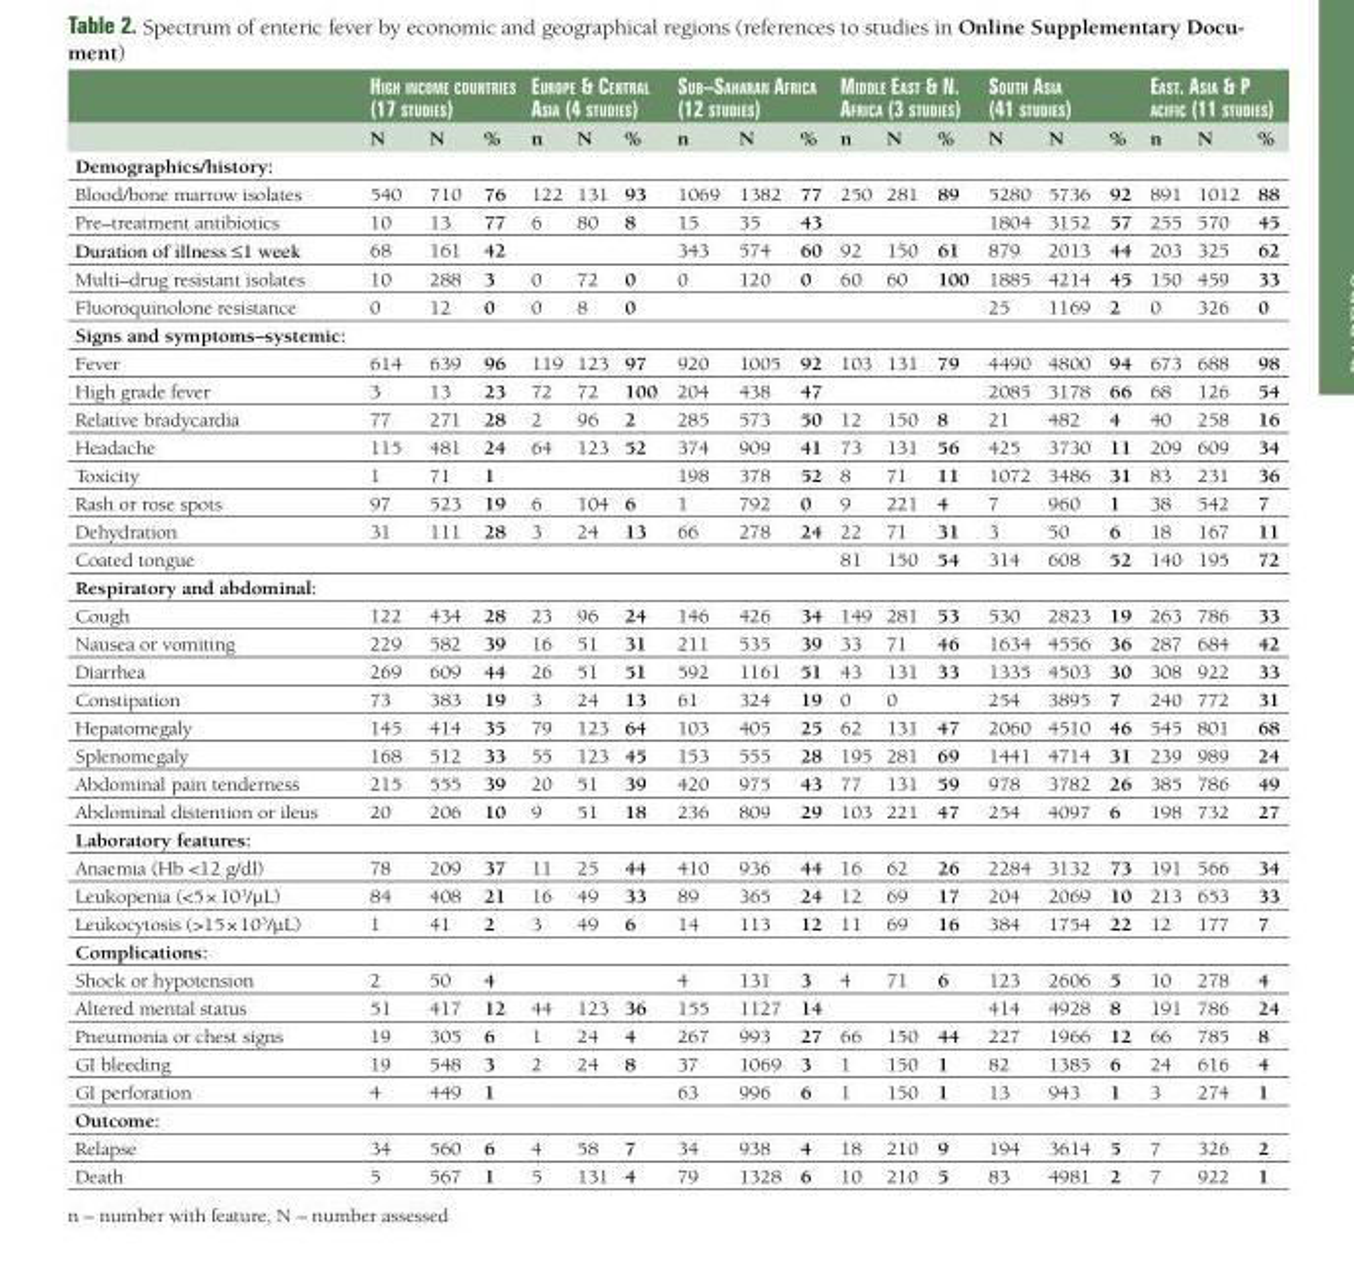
<table><thead><tr><td rowspan="2"></td><td colspan="3">HigH income countries (17 studies)</td><td colspan="3">europe &amp; central asia (4 studies)</td><td colspan="3">sub–saHaran africa (12 studies)</td><td colspan="3">middle east &amp; n. africa (3 studies)</td><td colspan="3">soutH asia (41 studies)</td><td colspan="3">east. asia &amp; p acific (11 studies)</td></tr><tr><td>N</td><td>N</td><td>%</td><td>n</td><td>N</td><td>%</td><td>n</td><td>N</td><td>%</td><td>n</td><td>N</td><td>%</td><td>N</td><td>N</td><td>%</td><td>n</td><td>N</td><td>%</td></tr></thead><tbody><tr><td colspan="19">Demographics/history:</td></tr><tr><td>Blood/bone marrow isolates</td><td>540</td><td>710</td><td>76</td><td>122</td><td>131</td><td>93</td><td>1069</td><td>1382</td><td>77</td><td>250</td><td>281</td><td>89</td><td>5280</td><td>5736</td><td>92</td><td>891</td><td>1012</td><td>88</td></tr><tr><td>Pre–treatment antibiotics</td><td>10</td><td>13</td><td>77</td><td>6</td><td>80</td><td>8</td><td>15</td><td>35</td><td>43</td><td></td><td></td><td></td><td>1804</td><td>3152</td><td>57</td><td>255</td><td>570</td><td>45</td></tr><tr><td>Duration of illness ≤1 week</td><td>68</td><td>161</td><td>42</td><td></td><td></td><td></td><td>343</td><td>574</td><td>60</td><td>92</td><td>150</td><td>61</td><td>879</td><td>2013</td><td>44</td><td>203</td><td>325</td><td>62</td></tr><tr><td>Multi–drug resistant isolates</td><td>10</td><td>288</td><td>3</td><td>0</td><td>72</td><td>0</td><td>0</td><td>120</td><td>0</td><td>60</td><td>60</td><td>100</td><td>1885</td><td>4214</td><td>45</td><td>150</td><td>459</td><td>33</td></tr><tr><td>Fluoroquinolone resistance</td><td>0</td><td>12</td><td>0</td><td>0</td><td>8</td><td>0</td><td></td><td></td><td></td><td></td><td></td><td></td><td>25</td><td>1169</td><td>2</td><td>0</td><td>326</td><td>0</td></tr><tr><td colspan="19">Signs and symptoms–systemic:</td></tr><tr><td>Fever</td><td>614</td><td>639</td><td>96</td><td>119</td><td>123</td><td>97</td><td>920</td><td>1005</td><td>92</td><td>103</td><td>131</td><td>79</td><td>4490</td><td>4800</td><td>94</td><td>673</td><td>688</td><td>98</td></tr><tr><td>High grade fever</td><td>3</td><td>13</td><td>23</td><td>72</td><td>72</td><td>100</td><td>204</td><td>438</td><td>47</td><td></td><td></td><td></td><td>2085</td><td>3178</td><td>66</td><td>68</td><td>126</td><td>54</td></tr><tr><td>Relative bradycardia</td><td>77</td><td>271</td><td>28</td><td>2</td><td>96</td><td>2</td><td>285</td><td>573</td><td>50</td><td>12</td><td>150</td><td>8</td><td>21</td><td>482</td><td>4</td><td>40</td><td>258</td><td>16</td></tr><tr><td>Headache</td><td>115</td><td>481</td><td>24</td><td>64</td><td>123</td><td>52</td><td>374</td><td>909</td><td>41</td><td>73</td><td>131</td><td>56</td><td>425</td><td>3730</td><td>11</td><td>209</td><td>609</td><td>34</td></tr><tr><td>Toxicity</td><td>1</td><td>71</td><td>1</td><td></td><td></td><td></td><td>198</td><td>378</td><td>52</td><td>8</td><td>71</td><td>11</td><td>1072</td><td>3486</td><td>31</td><td>83</td><td>231</td><td>36</td></tr><tr><td>Rash or rose spots</td><td>97</td><td>523</td><td>19</td><td>6</td><td>104</td><td>6</td><td>1</td><td>792</td><td>0</td><td>9</td><td>221</td><td>4</td><td>7</td><td>960</td><td>1</td><td>38</td><td>542</td><td>7</td></tr><tr><td>Dehydration</td><td>31</td><td>111</td><td>28</td><td>3</td><td>24</td><td>13</td><td>66</td><td>278</td><td>24</td><td>22</td><td>71</td><td>31</td><td>3</td><td>50</td><td>6</td><td>18</td><td>167</td><td>11</td></tr><tr><td>Coated tongue</td><td></td><td></td><td></td><td></td><td></td><td></td><td></td><td></td><td></td><td>81</td><td>150</td><td>54</td><td>314</td><td>608</td><td>52</td><td>140</td><td>195</td><td>72</td></tr><tr><td colspan="19">Respiratory and abdominal:</td></tr><tr><td>Cough</td><td>122</td><td>434</td><td>28</td><td>23</td><td>96</td><td>24</td><td>146</td><td>426</td><td>34</td><td>149</td><td>281</td><td>53</td><td>530</td><td>2823</td><td>19</td><td>263</td><td>786</td><td>33</td></tr><tr><td>Nausea or vomiting</td><td>229</td><td>582</td><td>39</td><td>16</td><td>51</td><td>31</td><td>211</td><td>535</td><td>39</td><td>33</td><td>71</td><td>46</td><td>1634</td><td>4556</td><td>36</td><td>287</td><td>684</td><td>42</td></tr><tr><td>Diarrhea</td><td>269</td><td>609</td><td>44</td><td>26</td><td>51</td><td>51</td><td>592</td><td>1161</td><td>51</td><td>43</td><td>131</td><td>33</td><td>1335</td><td>4503</td><td>30</td><td>308</td><td>922</td><td>33</td></tr><tr><td>Constipation</td><td>73</td><td>383</td><td>19</td><td>3</td><td>24</td><td>13</td><td>61</td><td>324</td><td>19</td><td>0</td><td>0</td><td></td><td>254</td><td>3895</td><td>7</td><td>240</td><td>772</td><td>31</td></tr><tr><td>Hepatomegaly</td><td>145</td><td>414</td><td>35</td><td>79</td><td>123</td><td>64</td><td>103</td><td>405</td><td>25</td><td>62</td><td>131</td><td>47</td><td>2060</td><td>4510</td><td>46</td><td>545</td><td>801</td><td>68</td></tr><tr><td>Splenomegaly</td><td>168</td><td>512</td><td>33</td><td>55</td><td>123</td><td>45</td><td>153</td><td>555</td><td>28</td><td>195</td><td>281</td><td>69</td><td>1441</td><td>4714</td><td>31</td><td>239</td><td>989</td><td>24</td></tr><tr><td>Abdominal pain tenderness</td><td>215</td><td>555</td><td>39</td><td>20</td><td>51</td><td>39</td><td>420</td><td>975</td><td>43</td><td>77</td><td>131</td><td>59</td><td>978</td><td>3782</td><td>26</td><td>385</td><td>786</td><td>49</td></tr><tr><td>Abdominal distention or ileus</td><td>20</td><td>206</td><td>10</td><td>9</td><td>51</td><td>18</td><td>236</td><td>809</td><td>29</td><td>103</td><td>221</td><td>47</td><td>254</td><td>4097</td><td>6</td><td>198</td><td>732</td><td>27</td></tr><tr><td colspan="19">Laboratory features:</td></tr><tr><td>Anaemia (Hb &lt;12 g/dl)</td><td>78</td><td>209</td><td>37</td><td>11</td><td>25</td><td>44</td><td>410</td><td>936</td><td>44</td><td>16</td><td>62</td><td>26</td><td>2284</td><td>3132</td><td>73</td><td>191</td><td>566</td><td>34</td></tr><tr><td>Leukopenia (&lt;5 × 10<sup>3</sup>/µL)</td><td>84</td><td>408</td><td>21</td><td>16</td><td>49</td><td>33</td><td>89</td><td>365</td><td>24</td><td>12</td><td>69</td><td>17</td><td>204</td><td>2069</td><td>10</td><td>213</td><td>653</td><td>33</td></tr><tr><td>Leukocytosis (&gt;15 × 10<sup>3</sup>/µL)</td><td>1</td><td>41</td><td>2</td><td>3</td><td>49</td><td>6</td><td>14</td><td>113</td><td>12</td><td>11</td><td>69</td><td>16</td><td>384</td><td>1754</td><td>22</td><td>12</td><td>177</td><td>7</td></tr><tr><td colspan="19">Complications:</td></tr><tr><td>Shock or hypotension</td><td>2</td><td>50</td><td>4</td><td></td><td></td><td></td><td>4</td><td>131</td><td>3</td><td>4</td><td>71</td><td>6</td><td>123</td><td>2606</td><td>5</td><td>10</td><td>278</td><td>4</td></tr><tr><td>Altered mental status</td><td>51</td><td>417</td><td>12</td><td>44</td><td>123</td><td>36</td><td>155</td><td>1127</td><td>14</td><td></td><td></td><td></td><td>414</td><td>4928</td><td>8</td><td>191</td><td>786</td><td>24</td></tr><tr><td>Pneumonia or chest signs</td><td>19</td><td>305</td><td>6</td><td>1</td><td>24</td><td>4</td><td>267</td><td>993</td><td>27</td><td>66</td><td>150</td><td>44</td><td>227</td><td>1966</td><td>12</td><td>66</td><td>785</td><td>8</td></tr><tr><td>GI bleeding</td><td>19</td><td>548</td><td>3</td><td>2</td><td>24</td><td>8</td><td>37</td><td>1069</td><td>3</td><td>1</td><td>150</td><td>1</td><td>82</td><td>1385</td><td>6</td><td>24</td><td>616</td><td>4</td></tr><tr><td>GI perforation</td><td>4</td><td>449</td><td>1</td><td></td><td></td><td></td><td>63</td><td>996</td><td>6</td><td>1</td><td>150</td><td>1</td><td>13</td><td>943</td><td>1</td><td>3</td><td>274</td><td>1</td></tr><tr><td colspan="19">Outcome:</td></tr><tr><td>Relapse</td><td>34</td><td>560</td><td>6</td><td>4</td><td>58</td><td>7</td><td>34</td><td>938</td><td>4</td><td>18</td><td>210</td><td>9</td><td>194</td><td>3614</td><td>5</td><td>7</td><td>326</td><td>2</td></tr><tr><td>Death</td><td>5</td><td>567</td><td>1</td><td>5</td><td>131</td><td>4</td><td>79</td><td>1328</td><td>6</td><td>10</td><td>210</td><td>5</td><td>83</td><td>4981</td><td>2</td><td>7</td><td>922</td><td>1</td></tr></tbody></table>